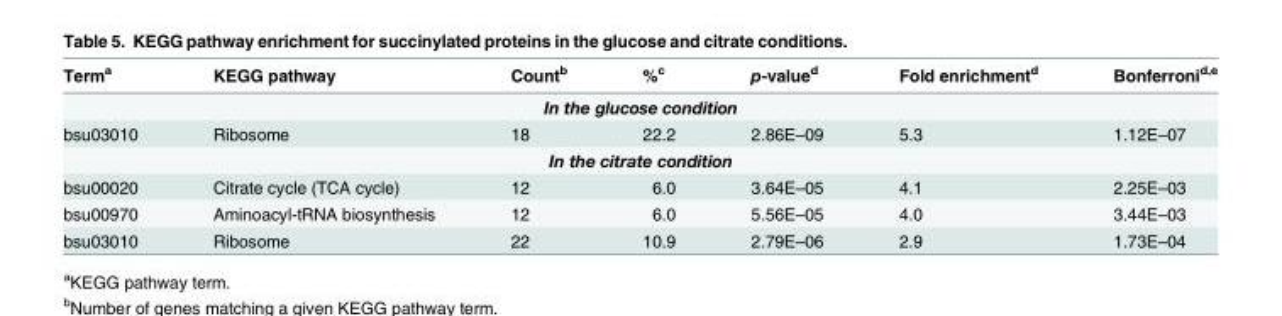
<table><thead><tr><td>Term<sup>a</sup></td><td>KEGG pathway</td><td>Count<sup>b</sup></td><td>%<sup>c</sup></td><td>p-value<sup>d</sup></td><td>Fold enrichment<sup>d</sup></td><td>Bonferroni<sup>d,e</sup></td></tr></thead><tbody><tr><td colspan="7">In the glucose condition</td></tr><tr><td>bsu03010</td><td>Ribosome</td><td>18</td><td>22.2</td><td>2.86E–09</td><td>5.3</td><td>1.12E–07</td></tr><tr><td colspan="7">In the citrate condition</td></tr><tr><td>bsu00020</td><td>Citrate cycle (TCA cycle)</td><td>12</td><td>6.0</td><td>3.64E–05</td><td>4.1</td><td>2.25E–03</td></tr><tr><td>bsu00970</td><td>Aminoacyl-tRNA biosynthesis</td><td>12</td><td>6.0</td><td>5.56E–05</td><td>4.0</td><td>3.44E–03</td></tr><tr><td>bsu03010</td><td>Ribosome</td><td>22</td><td>10.9</td><td>2.79E–06</td><td>2.9</td><td>1.73E–04</td></tr></tbody></table>